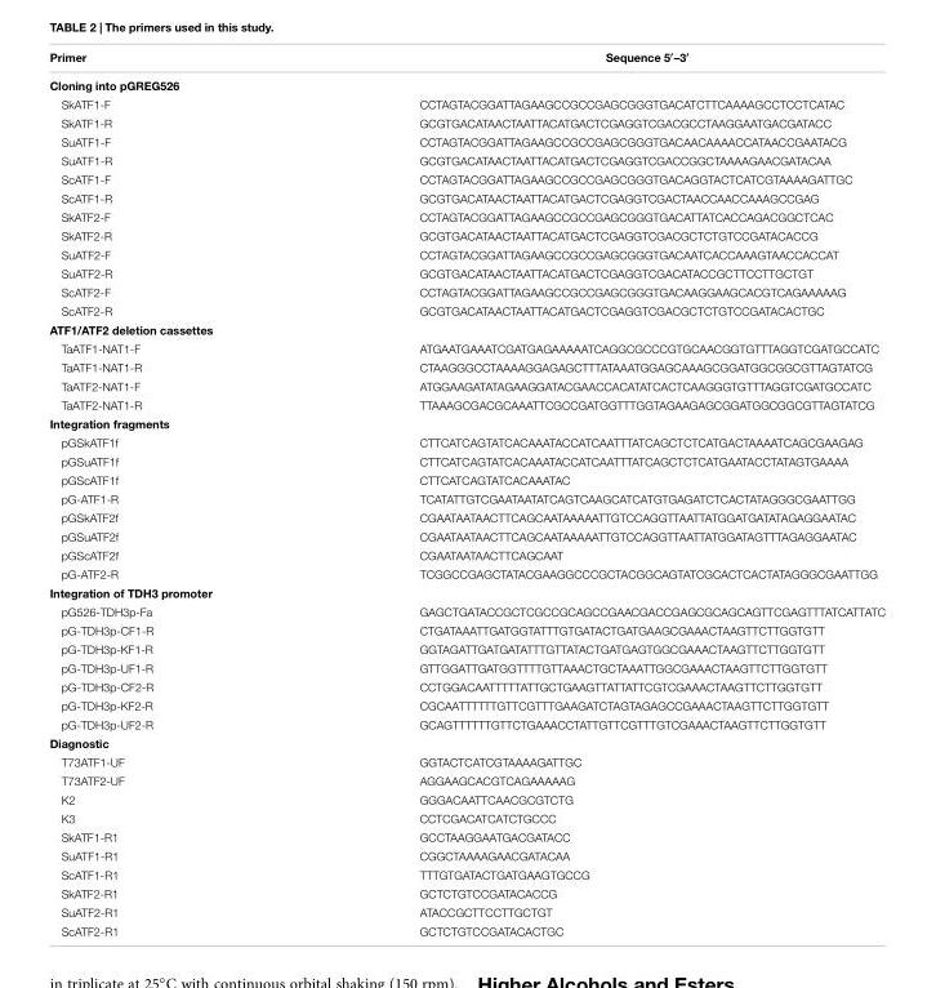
<table><thead><tr><td>Primer</td><td>Sequence 5′–3′</td></tr></thead><tbody><tr><td colspan="2">Cloning into pGREG526</td></tr><tr><td>SkATF1-F</td><td>CCTAGTACGGATTAGAAGCCGCCGAGCGGGTGACATCTTCAAAAGCCTCCTCATAC</td></tr><tr><td>SkATF1-R</td><td>GCGTGACATAACTAATTACATGACTCGAGGTCGACGCCTAAGGAATGACGATACC</td></tr><tr><td>SuATF1-F</td><td>CCTAGTACGGATTAGAAGCCGCCGAGCGGGTGACAACAAAACCATAACCGAATACG</td></tr><tr><td>SuATF1-R</td><td>GCGTGACATAACTAATTACATGACTCGAGGTCGACCGGCTAAAAGAACGATACAA</td></tr><tr><td>ScATF1-F</td><td>CCTAGTACGGATTAGAAGCCGCCGAGCGGGTGACAGGTACTCATCGTAAAAGATTGC</td></tr><tr><td>ScATF1-R</td><td>GCGTGACATAACTAATTACATGACTCGAGGTCGACTAACCAACCAAAGCCGAG</td></tr><tr><td>SkATF2-F</td><td>CCTAGTACGGATTAGAAGCCGCCGAGCGGGTGACATTATCACCAGACGGCTCAC</td></tr><tr><td>SkATF2-R</td><td>GCGTGACATAACTAATTACATGACTCGAGGTCGACGCTCTGTCCGATACACCG</td></tr><tr><td>SuATF2-F</td><td>CCTAGTACGGATTAGAAGCCGCCGAGCGGGTGACAATCACCAAAGTAACCACCAT</td></tr><tr><td>SuATF2-R</td><td>GCGTGACATAACTAATTACATGACTCGAGGTCGACATACCGCTTCCTTGCTGT</td></tr><tr><td>ScATF2-F</td><td>CCTAGTACGGATTAGAAGCCGCCGAGCGGGTGACAAGGAAGCACGTCAGAAAAAG</td></tr><tr><td>ScATF2-R</td><td>GCGTGACATAACTAATTACATGACTCGAGGTCGACGCTCTGTCCGATACACTGC</td></tr><tr><td colspan="2">ATF1/ATF2 deletion cassettes</td></tr><tr><td>TaATF1-NAT1-F</td><td>ATGAATGAAATCGATGAGAAAAATCAGGCGCCCGTGCAACGGTGTTTAGGTCGATGCCATC</td></tr><tr><td>TaATF1-NAT1-R</td><td>CTAAGGGCCTAAAAGGAGAGCTTTATAAATGGAGCAAAGCGGATGGCGGCGTTAGTATCG</td></tr><tr><td>TaATF2-NAT1-F</td><td>ATGGAAGATATAGAAGGATACGAACCACATATCACTCAAGGGTGTTTAGGTCGATGCCATC</td></tr><tr><td>TaATF2-NAT1-R</td><td>TTAAAGCGACGCAAATTCGCCGATGGTTTGGTAGAAGAGCGGATGGCGGCGTTAGTATCG</td></tr><tr><td colspan="2">Integration fragments</td></tr><tr><td>pGSkATF1f</td><td>CTTCATCAGTATCACAAATACCATCAATTTATCAGCTCTCATGACTAAAATCAGCGAAGAG</td></tr><tr><td>pGSuATF1f</td><td>CTTCATCAGTATCACAAATACCATCAATTTATCAGCTCTCATGAATACCTATAGTGAAAA</td></tr><tr><td>pGScATF1f</td><td>CTTCATCAGTATCACAAATAC</td></tr><tr><td>pG-ATF1-R</td><td>TCATATTGTCGAATAATATCAGTCAAGCATCATGTGAGATCTCACTATAGGGCGAATTGG</td></tr><tr><td>pGSkATF2f</td><td>CGAATAATAACTTCAGCAATAAAAATTGTCCAGGTTAATTATGGATGATATAGAGGAATAC</td></tr><tr><td>pGSuATF2f</td><td>CGAATAATAACTTCAGCAATAAAAATTGTCCAGGTTAATTATGGATAGTTTAGAGGAATAC</td></tr><tr><td>pGScATF2f</td><td>CGAATAATAACTTCAGCAAT</td></tr><tr><td>pG-ATF2-R</td><td>TCGGCCGAGCTATACGAAGGCCCGCTACGGCAGTATCGCACTCACTATAGGGCGAATTGG</td></tr><tr><td colspan="2">Integration of TDH3 promoter</td></tr><tr><td>pG526-TDH3p-Fa</td><td>GAGCTGATACCGCTCGCCGCAGCCGAACGACCGAGCGCAGCAGTTCGAGTTTATCATTATC</td></tr><tr><td>pG-TDH3p-CF1-R</td><td>CTGATAAATTGATGGTATTTGTGATACTGATGAAGCGAAACTAAGTTCTTGGTGTT</td></tr><tr><td>pG-TDH3p-KF1-R</td><td>GGTAGATTGATGATATTTGTTATACTGATGAGTGGCGAAACTAAGTTCTTGGTGTT</td></tr><tr><td>pG-TDH3p-UF1-R</td><td>GTTGGATTGATGGTTTTGTTAAACTGCTAAATTGGCGAAACTAAGTTCTTGGTGTT</td></tr><tr><td>pG-TDH3p-CF2-R</td><td>CCTGGACAATTTTTATTGCTGAAGTTATTATTCGTCGAAACTAAGTTCTTGGTGTT</td></tr><tr><td>pG-TDH3p-KF2-R</td><td>CGCAATTTTTTGTTCGTTTGAAGATCTAGTAGAGCCGAAACTAAGTTCTTGGTGTT</td></tr><tr><td>pG-TDH3p-UF2-R</td><td>GCAGTTTTTTGTTCTGAAACCTATTGTTCGTTTGTCGAAACTAAGTTCTTGGTGTT</td></tr><tr><td colspan="2">Diagnostic</td></tr><tr><td>T73ATF1-UF</td><td>GGTACTCATCGTAAAAGATTGC</td></tr><tr><td>T73ATF2-UF</td><td>AGGAAGCACGTCAGAAAAAG</td></tr><tr><td>K2</td><td>GGGACAATTCAACGCGTCTG</td></tr><tr><td>K3</td><td>CCTCGACATCATCTGCCC</td></tr><tr><td>SkATF1-R1</td><td>GCCTAAGGAATGACGATACC</td></tr><tr><td>SuATF1-R1</td><td>CGGCTAAAAGAACGATACAA</td></tr><tr><td>ScATF1-R1</td><td>TTTGTGATACTGATGAAGTGCCG</td></tr><tr><td>SkATF2-R1</td><td>GCTCTGTCCGATACACCG</td></tr><tr><td>SuATF2-R1</td><td>ATACCGCTTCCTTGCTGT</td></tr><tr><td>ScATF2-R1</td><td>GCTCTGTCCGATACACTGC</td></tr></tbody></table>